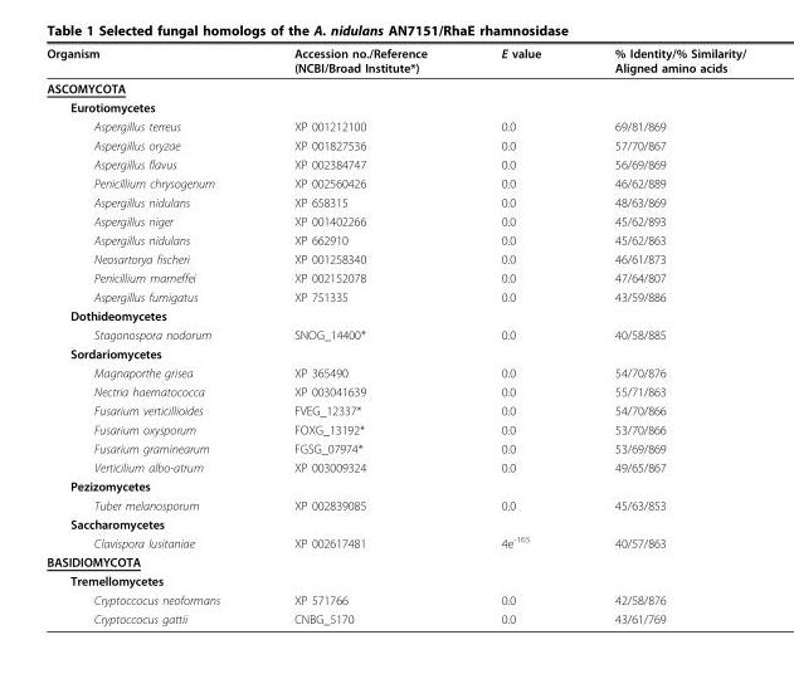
<table><tbody><tr><td>Organism</td><td>Accession no./Reference (NCBI/Broad Institute*)</td><td>E value</td><td>% Identity/% Similarity/ Aligned amino acids</td></tr><tr><td colspan="4">ASCOMYCOTA</td></tr><tr><td colspan="4">Eurotiomycetes</td></tr><tr><td>Aspergillus terreus</td><td>XP 001212100</td><td>0.0</td><td>69/81/869</td></tr><tr><td>Aspergillus oryzae</td><td>XP 001827536</td><td>0.0</td><td>57/70/867</td></tr><tr><td>Aspergillus flavus</td><td>XP 002384747</td><td>0.0</td><td>56/69/869</td></tr><tr><td>Penicillium chrysogenum</td><td>XP 002560426</td><td>0.0</td><td>46/62/889</td></tr><tr><td>Aspergillus nidulans</td><td>XP 658315</td><td>0.0</td><td>48/63/869</td></tr><tr><td>Aspergillus niger</td><td>XP 001402266</td><td>0.0</td><td>45/62/893</td></tr><tr><td>Aspergillus nidulans</td><td>XP 662910</td><td>0.0</td><td>45/62/863</td></tr><tr><td>Neosartorya fischeri</td><td>XP 001258340</td><td>0.0</td><td>46/61/873</td></tr><tr><td>Penicillium marneffei</td><td>XP 002152078</td><td>0.0</td><td>47/64/807</td></tr><tr><td>Aspergillus fumigatus</td><td>XP 751335</td><td>0.0</td><td>43/59/886</td></tr><tr><td colspan="4">Dothideomycetes</td></tr><tr><td>Stagonospora nodorum</td><td>SNOG_14400*</td><td>0.0</td><td>40/58/885</td></tr><tr><td colspan="4">Sordariomycetes</td></tr><tr><td>Magnaporthe grisea</td><td>XP 365490</td><td>0.0</td><td>54/70/876</td></tr><tr><td>Nectria haematococca</td><td>XP 003041639</td><td>0.0</td><td>55/71/863</td></tr><tr><td>Fusarium verticillioides</td><td>FVEG_12337*</td><td>0.0</td><td>54/70/866</td></tr><tr><td>Fusarium oxysporum</td><td>FOXG_13192*</td><td>0.0</td><td>53/70/866</td></tr><tr><td>Fusarium graminearum</td><td>FGSG_07974*</td><td>0.0</td><td>53/69/869</td></tr><tr><td>Verticilium albo-atrum</td><td>XP 003009324</td><td>0.0</td><td>49/65/867</td></tr><tr><td colspan="4">Pezizomycetes</td></tr><tr><td>Tuber melanosporum</td><td>XP 002839085</td><td>0.0</td><td>45/63/853</td></tr><tr><td colspan="4">Saccharomycetes</td></tr><tr><td>Clavispora lusitaniae</td><td>XP 002617481</td><td>4e<sup>-165</sup></td><td>40/57/863</td></tr><tr><td colspan="4">BASIDIOMYCOTA</td></tr><tr><td colspan="4">Tremellomycetes</td></tr><tr><td>Cryptoccocus neoformans</td><td>XP 571766</td><td>0.0</td><td>42/58/876</td></tr><tr><td>Cryptoccocus gattii</td><td>CNBG_5170</td><td>0.0</td><td>43/61/769</td></tr></tbody></table>